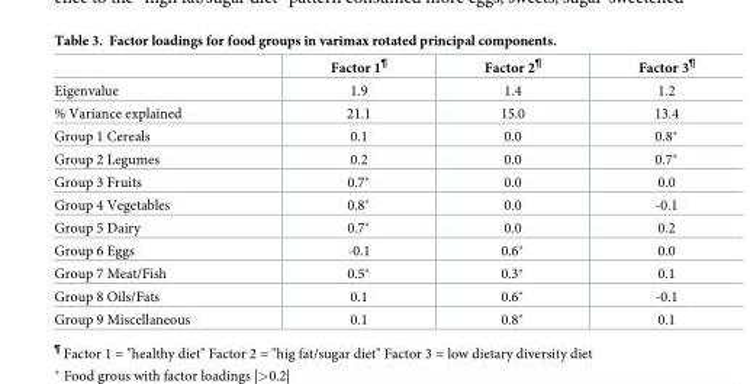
<table><thead><tr><td></td><td>Factor 1<sup>¶</sup></td><td>Factor 2<sup>¶</sup></td><td>Factor 3<sup>¶</sup></td></tr></thead><tbody><tr><td>Eigenvalue</td><td>1.9</td><td>1.4</td><td>1.2</td></tr><tr><td>% Variance explained</td><td>21.1</td><td>15.0</td><td>13.4</td></tr><tr><td>Group 1 Cereals</td><td>0.1</td><td>0.0</td><td>0.8*</td></tr><tr><td>Group 2 Legumes</td><td>0.2</td><td>0.0</td><td>0.7*</td></tr><tr><td>Group 3 Fruits</td><td>0.7*</td><td>0.0</td><td>0.0</td></tr><tr><td>Group 4 Vegetables</td><td>0.8*</td><td>0.0</td><td>-0.1</td></tr><tr><td>Group 5 Dairy</td><td>0.7*</td><td>0.0</td><td>0.2</td></tr><tr><td>Group 6 Eggs</td><td>-0.1</td><td>0.6*</td><td>0.0</td></tr><tr><td>Group 7 Meat/Fish</td><td>0.5*</td><td>0.3*</td><td>0.1</td></tr><tr><td>Group 8 Oils/Fats</td><td>0.1</td><td>0.6*</td><td>-0.1</td></tr><tr><td>Group 9 Miscellaneous</td><td>0.1</td><td>0.8*</td><td>0.1</td></tr></tbody></table>